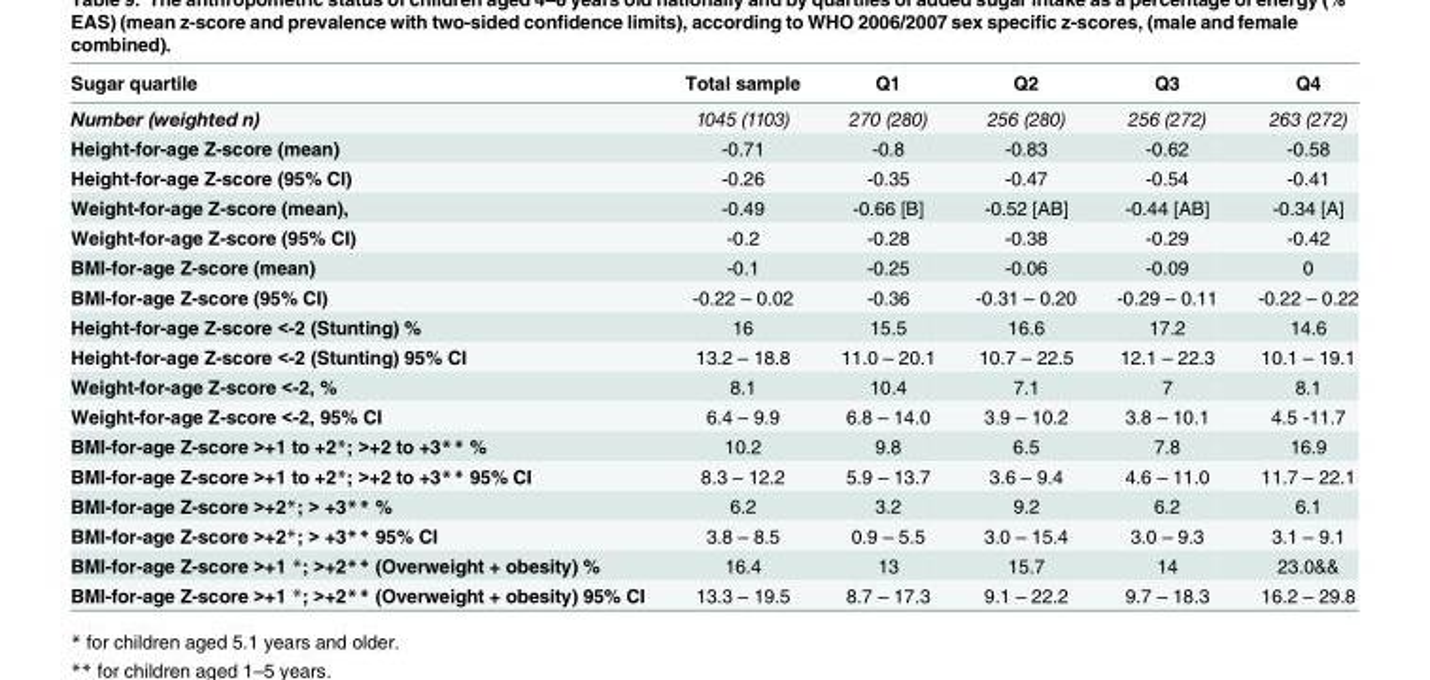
<table><thead><tr><td>Sugar quartile</td><td>Total sample</td><td>Q1</td><td>Q2</td><td>Q3</td><td>Q4</td></tr></thead><tbody><tr><td>Number (weighted n)</td><td>1045 (1103)</td><td>270 (280)</td><td>256 (280)</td><td>256 (272)</td><td>263 (272)</td></tr><tr><td>Height-for-age Z-score (mean)</td><td>-0.71</td><td>-0.8</td><td>-0.83</td><td>-0.62</td><td>-0.58</td></tr><tr><td>Height-for-age Z-score (95% CI)</td><td>-0.26</td><td>-0.35</td><td>-0.47</td><td>-0.54</td><td>-0.41</td></tr><tr><td>Weight-for-age Z-score (mean),</td><td>-0.49</td><td>-0.66 [B]</td><td>-0.52 [AB]</td><td>-0.44 [AB]</td><td>-0.34 [A]</td></tr><tr><td>Weight-for-age Z-score (95% CI)</td><td>-0.2</td><td>-0.28</td><td>-0.38</td><td>-0.29</td><td>-0.42</td></tr><tr><td>BMI-for-age Z-score (mean)</td><td>-0.1</td><td>-0.25</td><td>-0.06</td><td>-0.09</td><td>0</td></tr><tr><td>BMI-for-age Z-score (95% CI)</td><td>-0.22 – 0.02</td><td>-0.36</td><td>-0.31 – 0.20</td><td>-0.29 – 0.11</td><td>-0.22 – 0.22</td></tr><tr><td>Height-for-age Z-score &lt;-2 (Stunting) %</td><td>16</td><td>15.5</td><td>16.6</td><td>17.2</td><td>14.6</td></tr><tr><td>Height-for-age Z-score &lt;-2 (Stunting) 95% CI</td><td>13.2 – 18.8</td><td>11.0 – 20.1</td><td>10.7 – 22.5</td><td>12.1 – 22.3</td><td>10.1 – 19.1</td></tr><tr><td>Weight-for-age Z-score &lt;-2, %</td><td>8.1</td><td>10.4</td><td>7.1</td><td>7</td><td>8.1</td></tr><tr><td>Weight-for-age Z-score &lt;-2, 95% CI</td><td>6.4 – 9.9</td><td>6.8 – 14.0</td><td>3.9 – 10.2</td><td>3.8 – 10.1</td><td>4.5 -11.7</td></tr><tr><td>BMI-for-age Z-score &gt;+1 to +2*; &gt;+2 to +3** %</td><td>10.2</td><td>9.8</td><td>6.5</td><td>7.8</td><td>16.9</td></tr><tr><td>BMI-for-age Z-score &gt;+1 to +2*; &gt;+2 to +3** 95% CI</td><td>8.3 – 12.2</td><td>5.9 – 13.7</td><td>3.6 – 9.4</td><td>4.6 – 11.0</td><td>11.7 – 22.1</td></tr><tr><td>BMI-for-age Z-score &gt;+2*; &gt; +3** %</td><td>6.2</td><td>3.2</td><td>9.2</td><td>6.2</td><td>6.1</td></tr><tr><td>BMI-for-age Z-score &gt;+2*; &gt; +3** 95% CI</td><td>3.8 – 8.5</td><td>0.9 – 5.5</td><td>3.0 – 15.4</td><td>3.0 – 9.3</td><td>3.1 – 9.1</td></tr><tr><td>BMI-for-age Z-score &gt;+1 *; &gt;+2** (Overweight + obesity) %</td><td>16.4</td><td>13</td><td>15.7</td><td>14</td><td>23.0&amp;&amp;</td></tr><tr><td>BMI-for-age Z-score &gt;+1 *; &gt;+2** (Overweight + obesity) 95% CI</td><td>13.3 – 19.5</td><td>8.7 – 17.3</td><td>9.1 – 22.2</td><td>9.7 – 18.3</td><td>16.2 – 29.8</td></tr></tbody></table>